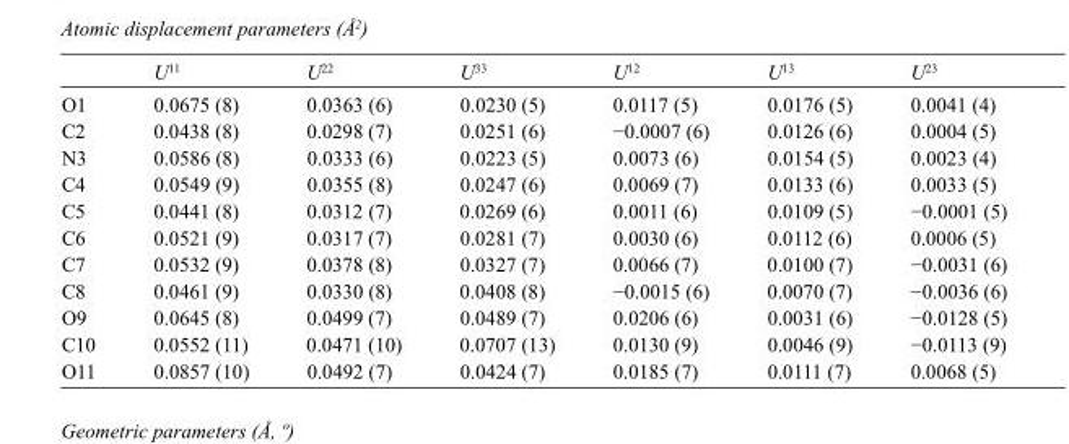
<table><thead><tr><td></td><td>U<sup>11</sup></td><td>U<sup>22</sup></td><td>U<sup>33</sup></td><td>U<sup>12</sup></td><td>U<sup>13</sup></td><td>U<sup>23</sup></td></tr></thead><tbody><tr><td>O1</td><td>0.0675 (8)</td><td>0.0363 (6)</td><td>0.0230 (5)</td><td>0.0117 (5)</td><td>0.0176 (5)</td><td>0.0041 (4)</td></tr><tr><td>C2</td><td>0.0438 (8)</td><td>0.0298 (7)</td><td>0.0251 (6)</td><td>−0.0007 (6)</td><td>0.0126 (6)</td><td>0.0004 (5)</td></tr><tr><td>N3</td><td>0.0586 (8)</td><td>0.0333 (6)</td><td>0.0223 (5)</td><td>0.0073 (6)</td><td>0.0154 (5)</td><td>0.0023 (4)</td></tr><tr><td>C4</td><td>0.0549 (9)</td><td>0.0355 (8)</td><td>0.0247 (6)</td><td>0.0069 (7)</td><td>0.0133 (6)</td><td>0.0033 (5)</td></tr><tr><td>C5</td><td>0.0441 (8)</td><td>0.0312 (7)</td><td>0.0269 (6)</td><td>0.0011 (6)</td><td>0.0109 (5)</td><td>−0.0001 (5)</td></tr><tr><td>C6</td><td>0.0521 (9)</td><td>0.0317 (7)</td><td>0.0281 (7)</td><td>0.0030 (6)</td><td>0.0112 (6)</td><td>0.0006 (5)</td></tr><tr><td>C7</td><td>0.0532 (9)</td><td>0.0378 (8)</td><td>0.0327 (7)</td><td>0.0066 (7)</td><td>0.0100 (7)</td><td>−0.0031 (6)</td></tr><tr><td>C8</td><td>0.0461 (9)</td><td>0.0330 (8)</td><td>0.0408 (8)</td><td>−0.0015 (6)</td><td>0.0070 (7)</td><td>−0.0036 (6)</td></tr><tr><td>O9</td><td>0.0645 (8)</td><td>0.0499 (7)</td><td>0.0489 (7)</td><td>0.0206 (6)</td><td>0.0031 (6)</td><td>−0.0128 (5)</td></tr><tr><td>C10</td><td>0.0552 (11)</td><td>0.0471 (10)</td><td>0.0707 (13)</td><td>0.0130 (9)</td><td>0.0046 (9)</td><td>−0.0113 (9)</td></tr><tr><td>O11</td><td>0.0857 (10)</td><td>0.0492 (7)</td><td>0.0424 (7)</td><td>0.0185 (7)</td><td>0.0111 (7)</td><td>0.0068 (5)</td></tr></tbody></table>